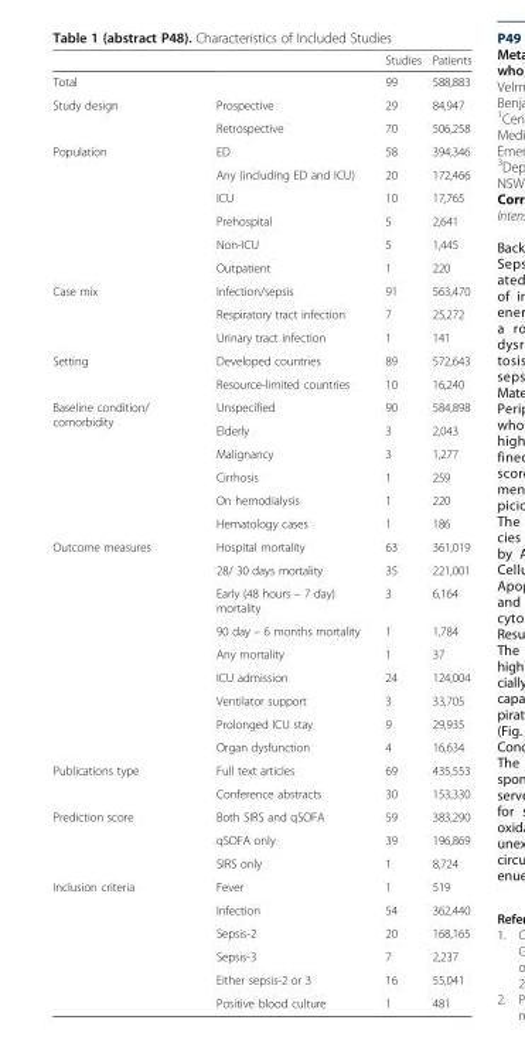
<table><thead><tr><td></td><td></td><td>Studies</td><td>Patients</td></tr></thead><tbody><tr><td>Total</td><td></td><td>99</td><td>588,883</td></tr><tr><td rowspan="2">Study design</td><td>Prospective</td><td>29</td><td>84,947</td></tr><tr><td>Retrospective</td><td>70</td><td>506,258</td></tr><tr><td rowspan="6">Population</td><td>ED</td><td>58</td><td>394,346</td></tr><tr><td>Any (including ED and ICU)</td><td>20</td><td>172,466</td></tr><tr><td>ICU</td><td>10</td><td>17,765</td></tr><tr><td>Prehospital</td><td>5</td><td>2,641</td></tr><tr><td>Non-ICU</td><td>5</td><td>1,445</td></tr><tr><td>Outpatient</td><td>1</td><td>220</td></tr><tr><td rowspan="3">Case mix</td><td>Infection/sepsis</td><td>91</td><td>563,470</td></tr><tr><td>Respiratory tract infection</td><td>7</td><td>25,272</td></tr><tr><td>Urinary tract infection</td><td>1</td><td>141</td></tr><tr><td rowspan="2">Setting</td><td>Developed countries</td><td>89</td><td>572,643</td></tr><tr><td>Resource-limited countries</td><td>10</td><td>16,240</td></tr><tr><td rowspan="6">Baseline condition/ comorbidity</td><td>Unspecified</td><td>90</td><td>584,898</td></tr><tr><td>Elderly</td><td>3</td><td>2,043</td></tr><tr><td>Malignancy</td><td>3</td><td>1,277</td></tr><tr><td>Cirrhosis</td><td>1</td><td>259</td></tr><tr><td>On hemodialysis</td><td>1</td><td>220</td></tr><tr><td>Hematology cases</td><td>1</td><td>186</td></tr><tr><td rowspan="9">Outcome measures</td><td>Hospital mortality</td><td>63</td><td>361,019</td></tr><tr><td>28/ 30 days mortality</td><td>35</td><td>221,001</td></tr><tr><td>Early (48 hours – 7 day) mortality</td><td>3</td><td>6,164</td></tr><tr><td>90 day – 6 months mortality</td><td>1</td><td>1,784</td></tr><tr><td>Any mortality</td><td>1</td><td>37</td></tr><tr><td>ICU admission</td><td>24</td><td>124,004</td></tr><tr><td>Ventilator support</td><td>3</td><td>33,705</td></tr><tr><td>Prolonged ICU stay</td><td>9</td><td>29,935</td></tr><tr><td>Organ dysfunction</td><td>4</td><td>16,634</td></tr><tr><td rowspan="2">Publications type</td><td>Full text articles</td><td>69</td><td>435,553</td></tr><tr><td>Conference abstracts</td><td>30</td><td>153,330</td></tr><tr><td rowspan="3">Prediction score</td><td>Both SIRS and qSOFA</td><td>59</td><td>383,290</td></tr><tr><td>qSOFA only</td><td>39</td><td>196,869</td></tr><tr><td>SIRS only</td><td>1</td><td>8,724</td></tr><tr><td rowspan="6">Inclusion criteria</td><td>Fever</td><td>1</td><td>519</td></tr><tr><td>Infection</td><td>54</td><td>362,440</td></tr><tr><td>Sepsis-2</td><td>20</td><td>168,165</td></tr><tr><td>Sepsis-3</td><td>7</td><td>2,237</td></tr><tr><td>Either sepsis-2 or 3</td><td>16</td><td>55,041</td></tr><tr><td>Positive blood culture</td><td>1</td><td>481</td></tr></tbody></table>